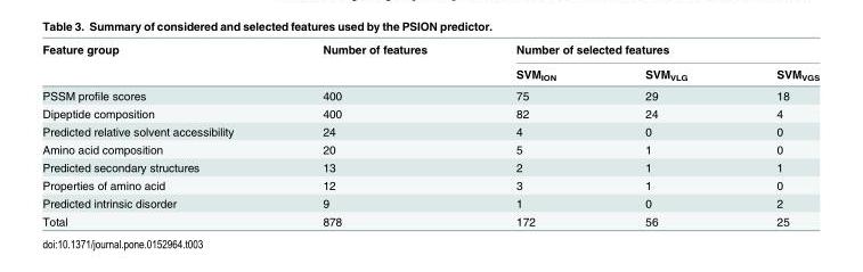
<table><thead><tr><td rowspan="2">Feature group</td><td rowspan="2">Number of features</td><td colspan="3">Number of selected features</td></tr><tr><td>SVM<sub>ION</sub></td><td>SVM<sub>VLG</sub></td><td>SVM<sub>VGS</sub></td></tr></thead><tbody><tr><td>PSSM profile scores</td><td>400</td><td>75</td><td>29</td><td>18</td></tr><tr><td>Dipeptide composition</td><td>400</td><td>82</td><td>24</td><td>4</td></tr><tr><td>Predicted relative solvent accessibility</td><td>24</td><td>4</td><td>0</td><td>0</td></tr><tr><td>Amino acid composition</td><td>20</td><td>5</td><td>1</td><td>0</td></tr><tr><td>Predicted secondary structures</td><td>13</td><td>2</td><td>1</td><td>1</td></tr><tr><td>Properties of amino acid</td><td>12</td><td>3</td><td>1</td><td>0</td></tr><tr><td>Predicted intrinsic disorder</td><td>9</td><td>1</td><td>0</td><td>2</td></tr><tr><td>Total</td><td>878</td><td>172</td><td>56</td><td>25</td></tr></tbody></table>